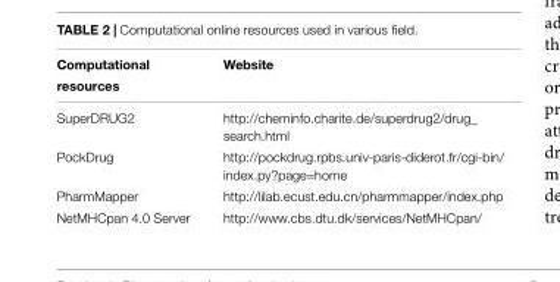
<table><thead><tr><td>Computational</td><td>Website</td></tr></thead><tbody><tr><td colspan="2">resources</td></tr><tr><td>SuperDRUG2</td><td>http://cheminfo.charite.de/superdrug2/drug_ search.html</td></tr><tr><td>PockDrug</td><td>http://pockdrug.rpbs.univ-paris-diderot.fr/cgi-bin/ index.py?page=home</td></tr><tr><td>PharmMapper</td><td>http://lilab.ecust.edu.cn/pharmmapper/index.php</td></tr><tr><td>NetMHCpan 4.0 Server</td><td>http://www.cbs.dtu.dk/services/NetMHCpan/</td></tr></tbody></table>